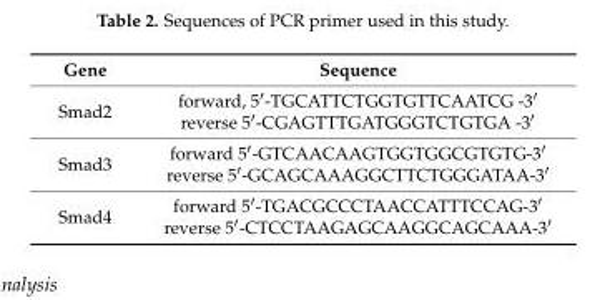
<table><thead><tr><td>Gene</td><td>Sequence</td></tr></thead><tbody><tr><td>Smad2</td><td>forward, 5′-TGCATTCTGGTGTTCAATCG -3′ reverse 5′-CGAGTTTGATGGGTCTGTGA -3′</td></tr><tr><td>Smad3</td><td>forward 5′-GTCAACAAGTGGTGGCGTGTG-3′ reverse 5′-GCAGCAAAGGCTTCTGGGATAA-3′</td></tr><tr><td>Smad4</td><td>forward 5′-TGACGCCCTAACCATTTCCAG-3′ reverse 5′-CTCCTAAGAGCAAGGCAGCAAA-3′</td></tr></tbody></table>